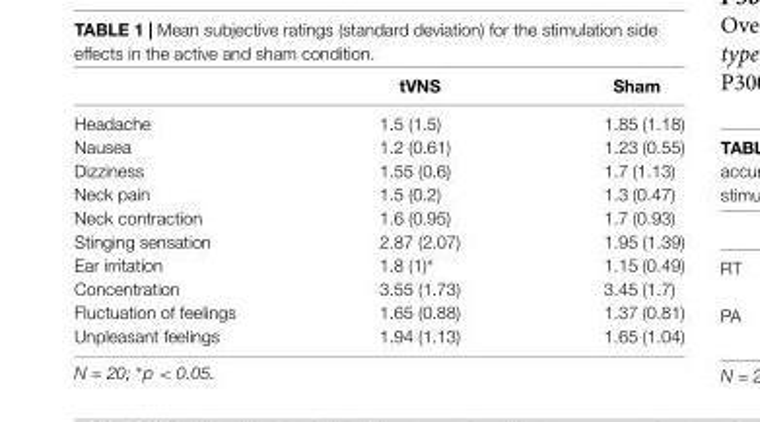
<table><thead><tr><td></td><td>tVNS</td><td>Sham</td></tr></thead><tbody><tr><td>Headache</td><td>1.5 (1.5)</td><td>1.85 (1.18)</td></tr><tr><td>Nausea</td><td>1.2 (0.61)</td><td>1.23 (0.55)</td></tr><tr><td>Dizziness</td><td>1.55 (0.6)</td><td>1.7 (1.13)</td></tr><tr><td>Neck pain</td><td>1.5 (0.2)</td><td>1.3 (0.47)</td></tr><tr><td>Neck contraction</td><td>1.6 (0.95)</td><td>1.7 (0.93)</td></tr><tr><td>Stinging sensation</td><td>2.87 (2.07)</td><td>1.95 (1.39)</td></tr><tr><td>Ear irritation</td><td>1.8 (1)∗</td><td>1.15 (0.49)</td></tr><tr><td>Concentration</td><td>3.55 (1.73)</td><td>3.45 (1.7)</td></tr><tr><td>Fluctuation of feelings</td><td>1.65 (0.88)</td><td>1.37 (0.81)</td></tr><tr><td>Unpleasant feelings</td><td>1.94 (1.13)</td><td>1.65 (1.04)</td></tr></tbody></table>